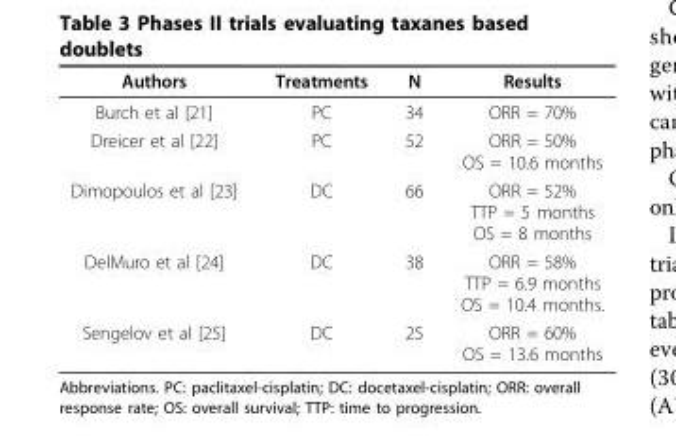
<table><thead><tr><td>Authors</td><td>Treatments</td><td>N</td><td>Results</td></tr></thead><tbody><tr><td>Burch et al [21]</td><td>PC</td><td>34</td><td>ORR = 70%</td></tr><tr><td>Dreicer et al [22]</td><td>PC</td><td>52</td><td>ORR = 50% OS = 10.6 months</td></tr><tr><td>Dimopoulos et al [23]</td><td>DC</td><td>66</td><td>ORR = 52% TTP = 5 months OS = 8 months</td></tr><tr><td>DelMuro et al [24]</td><td>DC</td><td>38</td><td>ORR = 58% TTP = 6.9 months OS = 10.4 months.</td></tr><tr><td>Sengelov et al [25]</td><td>DC</td><td>25</td><td>ORR = 60% OS = 13.6 months</td></tr></tbody></table>